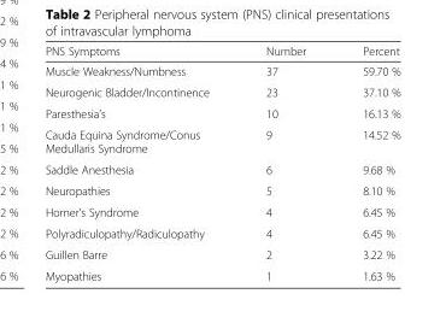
<table><thead><tr><td>PNS Symptoms</td><td>Number</td><td>Percent</td></tr></thead><tbody><tr><td>Muscle Weakness/Numbness</td><td>37</td><td>59.70 %</td></tr><tr><td>Neurogenic Bladder/Incontinence</td><td>23</td><td>37.10 %</td></tr><tr><td>Paresthesia’s</td><td>10</td><td>16.13 %</td></tr><tr><td>Cauda Equina Syndrome/Conus Medullaris Syndrome</td><td>9</td><td>14.52 %</td></tr><tr><td>Saddle Anesthesia</td><td>6</td><td>9.68 %</td></tr><tr><td>Neuropathies</td><td>5</td><td>8.10 %</td></tr><tr><td>Horner’s Syndrome</td><td>4</td><td>6.45 %</td></tr><tr><td>Polyradiculopathy/Radiculopathy</td><td>4</td><td>6.45 %</td></tr><tr><td>Guillen Barre</td><td>2</td><td>3.22 %</td></tr><tr><td>Myopathies</td><td>1</td><td>1.63 %</td></tr></tbody></table>